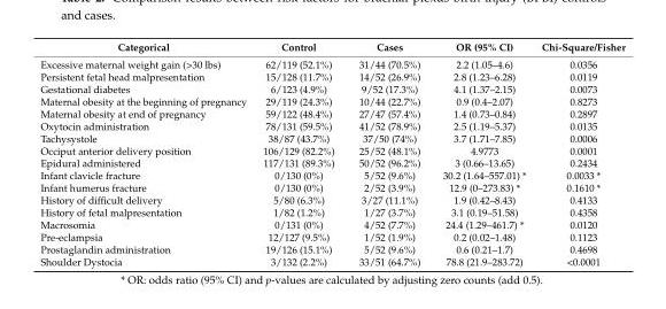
<table><thead><tr><td>Categorical</td><td>Control</td><td>Cases</td><td>OR (95% CI)</td><td>Chi-Square/Fisher</td></tr></thead><tbody><tr><td>Excessive maternal weight gain (&gt;30 lbs)</td><td>62/119 (52.1%)</td><td>31/44 (70.5%)</td><td>2.2 (1.05–4.6)</td><td>0.0356</td></tr><tr><td>Persistent fetal head malpresentation</td><td>15/128 (11.7%)</td><td>14/52 (26.9%)</td><td>2.8 (1.23–6.28)</td><td>0.0119</td></tr><tr><td>Gestational diabetes</td><td>6/123 (4.9%)</td><td>9/52 (17.3%)</td><td>4.1 (1.37–2.15)</td><td>0.0073</td></tr><tr><td>Maternal obesity at the beginning of pregnancy</td><td>29/119 (24.3%)</td><td>10/44 (22.7%)</td><td>0.9 (0.4–2.07)</td><td>0.8273</td></tr><tr><td>Maternal obesity at end of pregnancy</td><td>59/122 (48.4%)</td><td>27/47 (57.4%)</td><td>1.4 (0.73–0.84)</td><td>0.2897</td></tr><tr><td>Oxytocin administration</td><td>78/131 (59.5%)</td><td>41/52 (78.9%)</td><td>2.5 (1.19–5.37)</td><td>0.0135</td></tr><tr><td>Tachysystole</td><td>38/87 (43.7%)</td><td>37/50 (74%)</td><td>3.7 (1.71–7.85)</td><td>0.0006</td></tr><tr><td>Occiput anterior delivery position</td><td>106/129 (82.2%)</td><td>25/52 (48.1%)</td><td>4.9773</td><td>0.0001</td></tr><tr><td>Epidural administered</td><td>117/131 (89.3%)</td><td>50/52 (96.2%)</td><td>3 (0.66–13.65)</td><td>0.2434</td></tr><tr><td>Infant clavicle fracture</td><td>0/130 (0%)</td><td>5/52 (9.6%)</td><td>30.2 (1.64–557.01) *</td><td>0.0033 *</td></tr><tr><td>Infant humerus fracture</td><td>0/130 (0%)</td><td>2/52 (3.9%)</td><td>12.9 (0–273.83) *</td><td>0.1610 *</td></tr><tr><td>History of difficult delivery</td><td>5/80 (6.3%)</td><td>3/27 (11.1%)</td><td>1.9 (0.42–8.43)</td><td>0.4133</td></tr><tr><td>History of fetal malpresentation</td><td>1/82 (1.2%)</td><td>1/27 (3.7%)</td><td>3.1 (0.19–51.58)</td><td>0.4358</td></tr><tr><td>Macrosomia</td><td>0/131 (0%)</td><td>4/52 (7.7%)</td><td>24.4 (1.29–461.7) *</td><td>0.0120</td></tr><tr><td>Pre-eclampsia</td><td>12/127 (9.5%)</td><td>1/52 (1.9%)</td><td>0.2 (0.02–1.48)</td><td>0.1123</td></tr><tr><td>Prostaglandin administration</td><td>19/126 (15.1%)</td><td>5/52 (9.6%)</td><td>0.6 (0.21–1.7)</td><td>0.4698</td></tr><tr><td>Shoulder Dystocia</td><td>3/132 (2.2%)</td><td>33/51 (64.7%)</td><td>78.8 (21.9–283.72)</td><td>&lt;0.0001</td></tr></tbody></table>